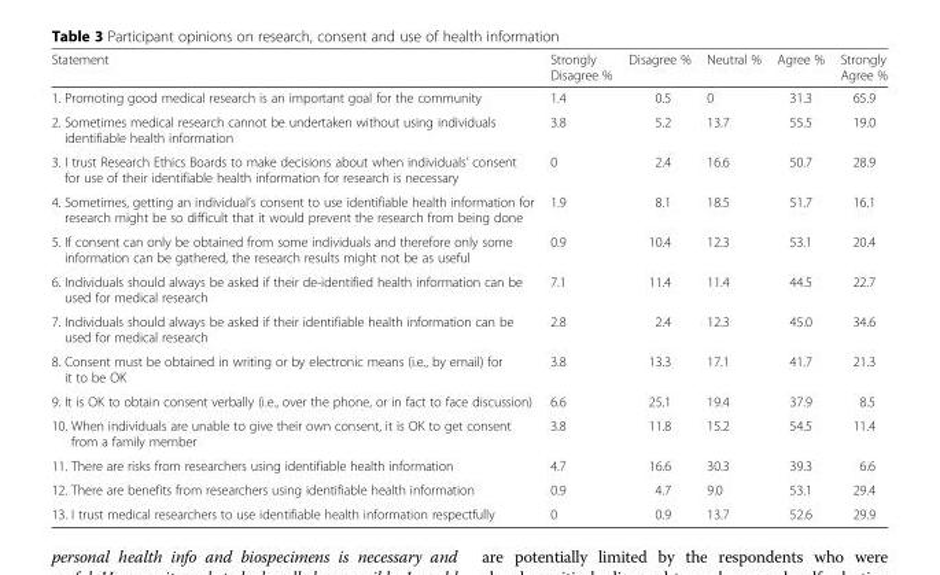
<table><thead><tr><td>Statement</td><td>Strongly Disagree %</td><td>Disagree %</td><td>Neutral %</td><td>Agree %</td><td>Strongly Agree %</td></tr></thead><tbody><tr><td>1. Promoting good medical research is an important goal for the community</td><td>1.4</td><td>0.5</td><td>0</td><td>31.3</td><td>65.9</td></tr><tr><td>2. Sometimes medical research cannot be undertaken without using individuals identifiable health information</td><td>3.8</td><td>5.2</td><td>13.7</td><td>55.5</td><td>19.0</td></tr><tr><td>3. I trust Research Ethics Boards to make decisions about when individuals’ consent for use of their identifiable health information for research is necessary</td><td>0</td><td>2.4</td><td>16.6</td><td>50.7</td><td>28.9</td></tr><tr><td>4. Sometimes, getting an individual’s consent to use identifiable health information for research might be so difficult that it would prevent the research from being done</td><td>1.9</td><td>8.1</td><td>18.5</td><td>51.7</td><td>16.1</td></tr><tr><td>5. If consent can only be obtained from some individuals and therefore only some information can be gathered, the research results might not be as useful</td><td>0.9</td><td>10.4</td><td>12.3</td><td>53.1</td><td>20.4</td></tr><tr><td>6. Individuals should always be asked if their de-identified health information can be used for medical research</td><td>7.1</td><td>11.4</td><td>11.4</td><td>44.5</td><td>22.7</td></tr><tr><td>7. Individuals should always be asked if their identifiable health information can be used for medical research</td><td>2.8</td><td>2.4</td><td>12.3</td><td>45.0</td><td>34.6</td></tr><tr><td>8. Consent must be obtained in writing or by electronic means (i.e., by email) for it to be OK</td><td>3.8</td><td>13.3</td><td>17.1</td><td>41.7</td><td>21.3</td></tr><tr><td>9. It is OK to obtain consent verbally (i.e., over the phone, or in fact to face discussion)</td><td>6.6</td><td>25.1</td><td>19.4</td><td>37.9</td><td>8.5</td></tr><tr><td>10. When individuals are unable to give their own consent, it is OK to get consent from a family member</td><td>3.8</td><td>11.8</td><td>15.2</td><td>54.5</td><td>11.4</td></tr><tr><td>11. There are risks from researchers using identifiable health information</td><td>4.7</td><td>16.6</td><td>30.3</td><td>39.3</td><td>6.6</td></tr><tr><td>12. There are benefits from researchers using identifiable health information</td><td>0.9</td><td>4.7</td><td>9.0</td><td>53.1</td><td>29.4</td></tr><tr><td>13. I trust medical researchers to use identifiable health information respectfully</td><td>0</td><td>0.9</td><td>13.7</td><td>52.6</td><td>29.9</td></tr></tbody></table>